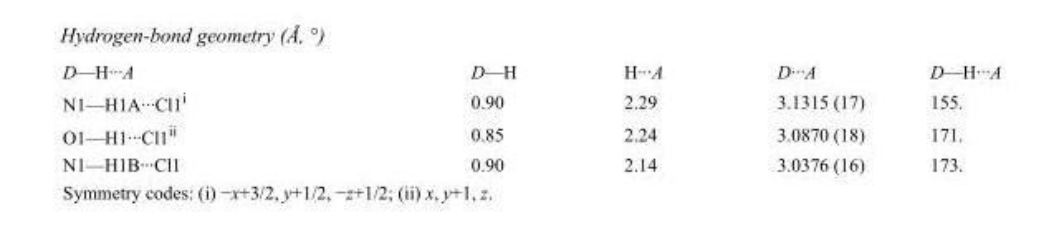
<table><tbody><tr><td>D—H···A</td><td>D—H</td><td>H···A</td><td>D···A</td><td>D—H···A</td></tr><tr><td>N1—H1A···Cl1<sup>i</sup></td><td>0.90</td><td>2.29</td><td>3.1315 (17)</td><td>155.</td></tr><tr><td>O1—H1···Cl1<sup>ii</sup></td><td>0.85</td><td>2.24</td><td>3.0870 (18)</td><td>171.</td></tr><tr><td>N1—H1B···Cl1</td><td>0.90</td><td>2.14</td><td>3.0376 (16)</td><td>173.</td></tr></tbody></table>